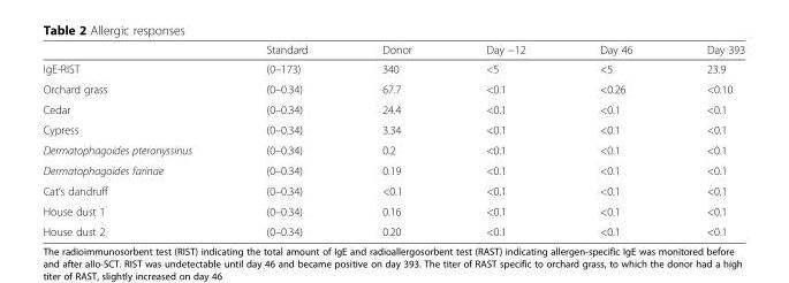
<table><thead><tr><td></td><td>Standard</td><td>Donor</td><td>Day −12</td><td>Day 46</td><td>Day 393</td></tr></thead><tbody><tr><td>IgE-RIST</td><td>(0–173)</td><td>340</td><td>&lt;5</td><td>&lt;5</td><td>23.9</td></tr><tr><td>Orchard grass</td><td>(0–0.34)</td><td>67.7</td><td>&lt;0.1</td><td>&lt;0.26</td><td>&lt;0.10</td></tr><tr><td>Cedar</td><td>(0–0.34)</td><td>24.4</td><td>&lt;0.1</td><td>&lt;0.1</td><td>&lt;0.1</td></tr><tr><td>Cypress</td><td>(0–0.34)</td><td>3.34</td><td>&lt;0.1</td><td>&lt;0.1</td><td>&lt;0.1</td></tr><tr><td>Dermatophagoides pteronyssinus</td><td>(0–0.34)</td><td>0.2</td><td>&lt;0.1</td><td>&lt;0.1</td><td>&lt;0.1</td></tr><tr><td>Dermatophagoides farinae</td><td>(0–0.34)</td><td>0.19</td><td>&lt;0.1</td><td>&lt;0.1</td><td>&lt;0.1</td></tr><tr><td>Cat’s dandruff</td><td>(0–0.34)</td><td>&lt;0.1</td><td>&lt;0.1</td><td>&lt;0.1</td><td>&lt;0.1</td></tr><tr><td>House dust 1</td><td>(0–0.34)</td><td>0.16</td><td>&lt;0.1</td><td>&lt;0.1</td><td>&lt;0.1</td></tr><tr><td>House dust 2</td><td>(0–0.34)</td><td>0.20</td><td>&lt;0.1</td><td>&lt;0.1</td><td>&lt;0.1</td></tr></tbody></table>